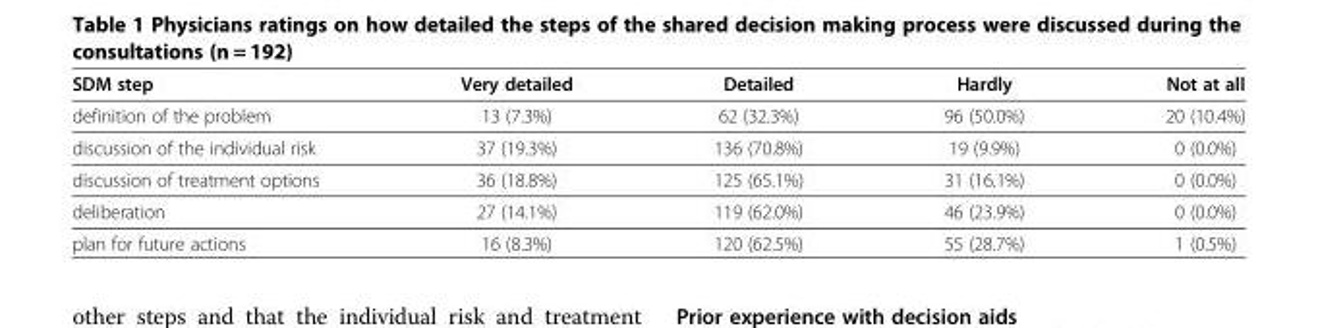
<table><thead><tr><td>SDM step</td><td>Very detailed</td><td>Detailed</td><td>Hardly</td><td>Not at all</td></tr></thead><tbody><tr><td>definition of the problem</td><td>13 (7.3%)</td><td>62 (32.3%)</td><td>96 (50.0%)</td><td>20 (10.4%)</td></tr><tr><td>discussion of the individual risk</td><td>37 (19.3%)</td><td>136 (70.8%)</td><td>19 (9.9%)</td><td>0 (0.0%)</td></tr><tr><td>discussion of treatment options</td><td>36 (18.8%)</td><td>125 (65.1%)</td><td>31 (16.1%)</td><td>0 (0.0%)</td></tr><tr><td>deliberation</td><td>27 (14.1%)</td><td>119 (62.0%)</td><td>46 (23.9%)</td><td>0 (0.0%)</td></tr><tr><td>plan for future actions</td><td>16 (8.3%)</td><td>120 (62.5%)</td><td>55 (28.7%)</td><td>1 (0.5%)</td></tr></tbody></table>